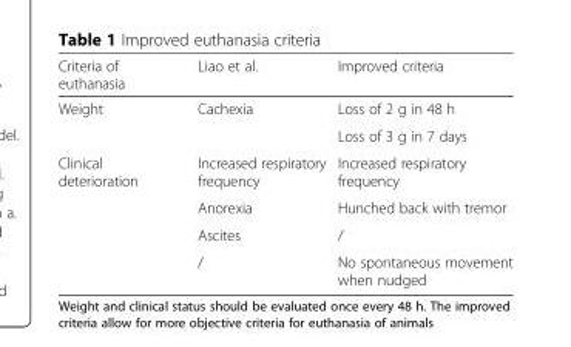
<table><thead><tr><td>Criteria of euthanasia</td><td>Liao et al.</td><td>Improved criteria</td></tr></thead><tbody><tr><td rowspan="2">Weight</td><td rowspan="2">Cachexia</td><td>Loss of 2 g in 48 h</td></tr><tr><td>Loss of 3 g in 7 days</td></tr><tr><td rowspan="4">Clinical deterioration</td><td>Increased respiratory frequency</td><td>Increased respiratory frequency</td></tr><tr><td>Anorexia</td><td>Hunched back with tremor</td></tr><tr><td>Ascites</td><td>/</td></tr><tr><td>/</td><td>No spontaneous movement when nudged</td></tr></tbody></table>